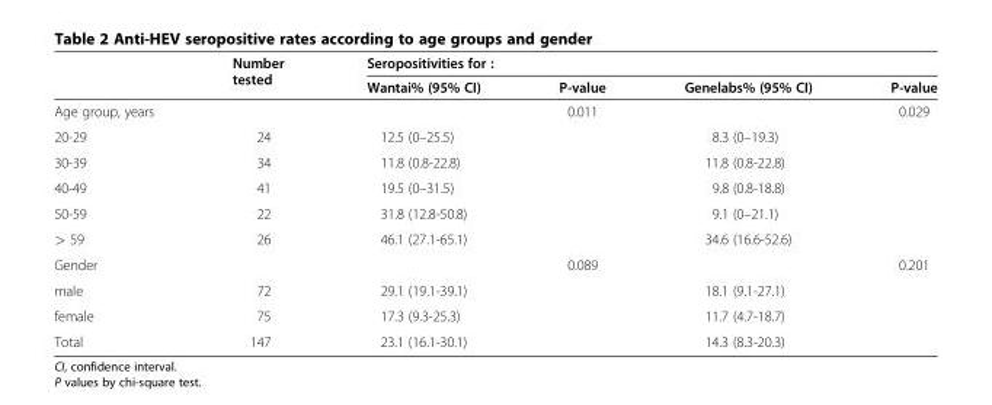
<table><thead><tr><td rowspan="2"></td><td rowspan="2">Number tested</td><td colspan="4">Seropositivities for :</td></tr><tr><td>Wantai% (95% CI)</td><td>P-value</td><td>Genelabs% (95% CI)</td><td>P-value</td></tr></thead><tbody><tr><td>Age group, years</td><td></td><td></td><td>0.011</td><td></td><td>0.029</td></tr><tr><td>20-29</td><td>24</td><td>12.5 (0–25.5)</td><td></td><td>8.3 (0–19.3)</td><td></td></tr><tr><td>30-39</td><td>34</td><td>11.8 (0.8-22.8)</td><td></td><td>11.8 (0.8-22.8)</td><td></td></tr><tr><td>40-49</td><td>41</td><td>19.5 (0–31.5)</td><td></td><td>9.8 (0.8-18.8)</td><td></td></tr><tr><td>50-59</td><td>22</td><td>31.8 (12.8-50.8)</td><td></td><td>9.1 (0–21.1)</td><td></td></tr><tr><td>&gt; 59</td><td>26</td><td>46.1 (27.1-65.1)</td><td></td><td>34.6 (16.6-52.6)</td><td></td></tr><tr><td>Gender</td><td></td><td></td><td>0.089</td><td></td><td>0.201</td></tr><tr><td>male</td><td>72</td><td>29.1 (19.1-39.1)</td><td></td><td>18.1 (9.1-27.1)</td><td></td></tr><tr><td>female</td><td>75</td><td>17.3 (9.3-25.3)</td><td></td><td>11.7 (4.7-18.7)</td><td></td></tr><tr><td>Total</td><td>147</td><td>23.1 (16.1-30.1)</td><td></td><td>14.3 (8.3-20.3)</td><td></td></tr></tbody></table>